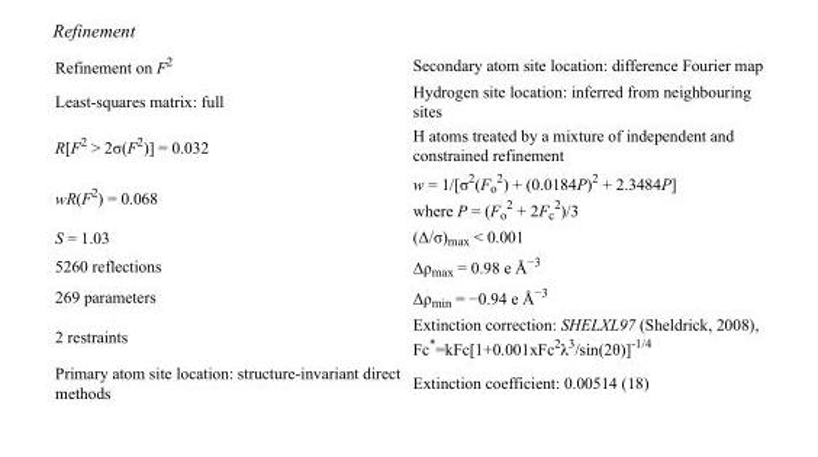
<table><tbody><tr><td>Refinement on F<sup>2</sup></td><td>Secondary atom site location: difference Fourier map</td></tr><tr><td>Least-squares matrix: full</td><td>Hydrogen site location: inferred from neighbouring sites</td></tr><tr><td>R[F<sup>2</sup> &gt; 2σ(F<sup>2</sup>)] = 0.032</td><td>H atoms treated by a mixture of independent and constrained refinement</td></tr><tr><td>wR(F<sup>2</sup>) = 0.068</td><td>w = 1/[σ<sup>2</sup>(F<sub>o</sub> <sup>2</sup>) + (0.0184P)<sup>2</sup> + 2.3484P] where P = (F<sub>o</sub> <sup>2</sup> + 2F<sub>c</sub> <sup>2</sup>)/3</td></tr><tr><td>S = 1.03</td><td>(Δ/σ)<sub>max</sub> &lt; 0.001</td></tr><tr><td>5260 reflections</td><td>Δρ<sub>max</sub> = 0.98 e Å<sup>−3</sup></td></tr><tr><td>269 parameters</td><td>Δρ<sub>min</sub> = −0.94 e Å<sup>−3</sup></td></tr><tr><td>2 restraints</td><td>Extinction correction: SHELXL97 (Sheldrick, 2008), Fc*=kFc[1+0.001xFc<sup>2</sup>λ<sup>3</sup>/sin(2θ)]<sup>-1/4</sup></td></tr><tr><td>Primary atom site location: structure-invariant direct methods</td><td>Extinction coefficient: 0.00514 (18)</td></tr></tbody></table>